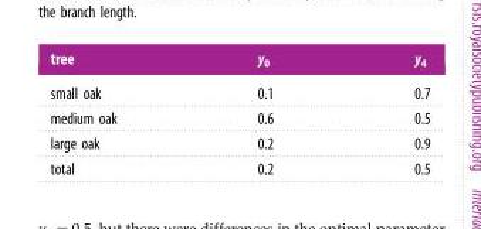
<table><thead><tr><td>tree</td><td>y<sub>0</sub></td><td>y<sub>4</sub></td></tr></thead><tbody><tr><td>small oak</td><td>0.1</td><td>0.7</td></tr><tr><td>medium oak</td><td>0.6</td><td>0.5</td></tr><tr><td>large oak</td><td>0.2</td><td>0.9</td></tr><tr><td>total</td><td>0.2</td><td>0.5</td></tr></tbody></table>